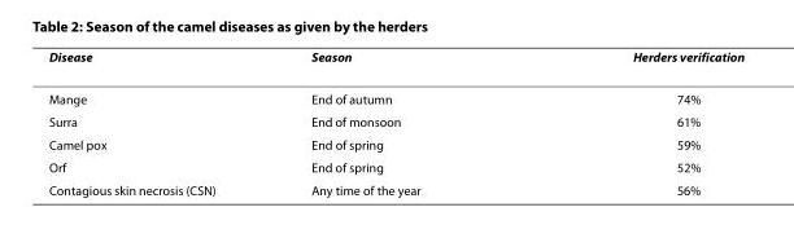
<table><thead><tr><td>Disease</td><td>Season</td><td>Herders verification</td></tr></thead><tbody><tr><td>Mange</td><td>End of autumn</td><td>74%</td></tr><tr><td>Surra</td><td>End of monsoon</td><td>61%</td></tr><tr><td>Camel pox</td><td>End of spring</td><td>59%</td></tr><tr><td>Orf</td><td>End of spring</td><td>52%</td></tr><tr><td>Contagious skin necrosis (CSN)</td><td>Any time of the year</td><td>56%</td></tr></tbody></table>